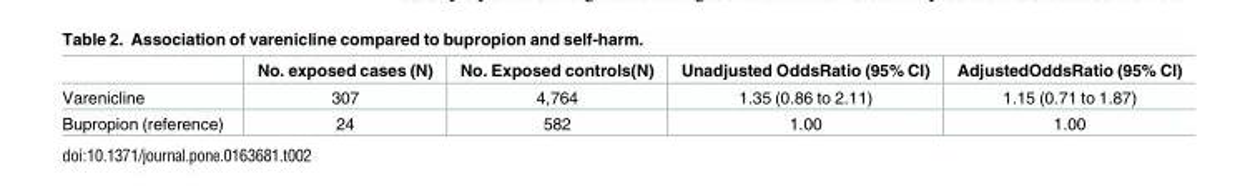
<table><thead><tr><td></td><td>No. exposed cases (N)</td><td>No. Exposed controls(N)</td><td>Unadjusted OddsRatio (95% CI)</td><td>AdjustedOddsRatio (95% CI)</td></tr></thead><tbody><tr><td>Varenicline</td><td>307</td><td>4,764</td><td>1.35 (0.86 to 2.11)</td><td>1.15 (0.71 to 1.87)</td></tr><tr><td>Bupropion (reference)</td><td>24</td><td>582</td><td>1.00</td><td>1.00</td></tr></tbody></table>